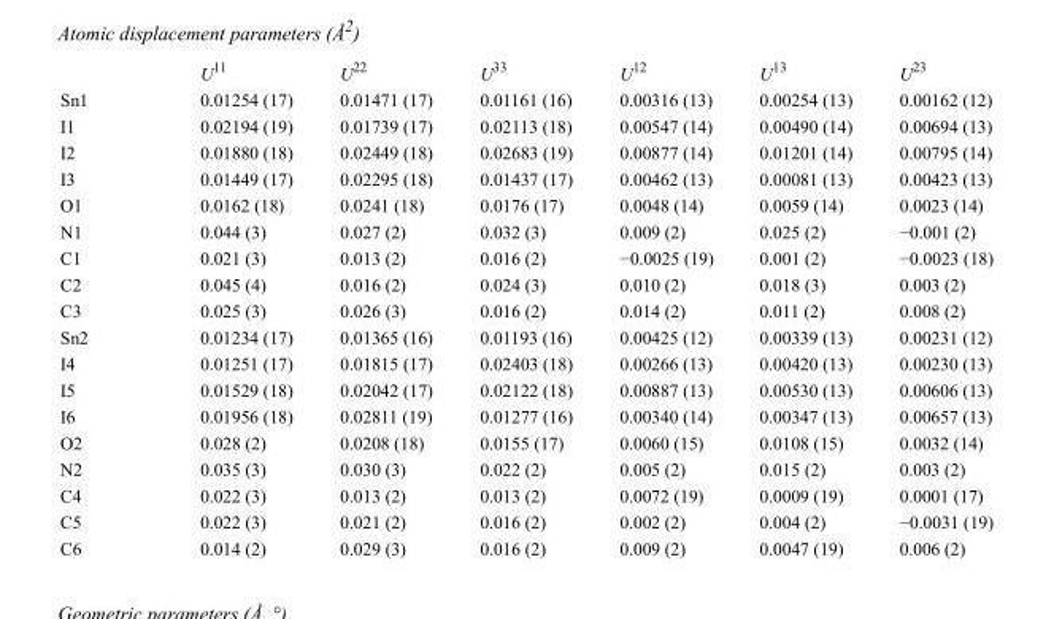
<table><thead><tr><td></td><td>U<sup>11</sup></td><td>U<sup>22</sup></td><td>U<sup>33</sup></td><td>U<sup>12</sup></td><td>U<sup>13</sup></td><td>U<sup>23</sup></td></tr></thead><tbody><tr><td>Sn1</td><td>0.01254 (17)</td><td>0.01471 (17)</td><td>0.01161 (16)</td><td>0.00316 (13)</td><td>0.00254 (13)</td><td>0.00162 (12)</td></tr><tr><td>I1</td><td>0.02194 (19)</td><td>0.01739 (17)</td><td>0.02113 (18)</td><td>0.00547 (14)</td><td>0.00490 (14)</td><td>0.00694 (13)</td></tr><tr><td>I2</td><td>0.01880 (18)</td><td>0.02449 (18)</td><td>0.02683 (19)</td><td>0.00877 (14)</td><td>0.01201 (14)</td><td>0.00795 (14)</td></tr><tr><td>I3</td><td>0.01449 (17)</td><td>0.02295 (18)</td><td>0.01437 (17)</td><td>0.00462 (13)</td><td>0.00081 (13)</td><td>0.00423 (13)</td></tr><tr><td>O1</td><td>0.0162 (18)</td><td>0.0241 (18)</td><td>0.0176 (17)</td><td>0.0048 (14)</td><td>0.0059 (14)</td><td>0.0023 (14)</td></tr><tr><td>N1</td><td>0.044 (3)</td><td>0.027 (2)</td><td>0.032 (3)</td><td>0.009 (2)</td><td>0.025 (2)</td><td>−0.001 (2)</td></tr><tr><td>C1</td><td>0.021 (3)</td><td>0.013 (2)</td><td>0.016 (2)</td><td>−0.0025 (19)</td><td>0.001 (2)</td><td>−0.0023 (18)</td></tr><tr><td>C2</td><td>0.045 (4)</td><td>0.016 (2)</td><td>0.024 (3)</td><td>0.010 (2)</td><td>0.018 (3)</td><td>0.003 (2)</td></tr><tr><td>C3</td><td>0.025 (3)</td><td>0.026 (3)</td><td>0.016 (2)</td><td>0.014 (2)</td><td>0.011 (2)</td><td>0.008 (2)</td></tr><tr><td>Sn2</td><td>0.01234 (17)</td><td>0.01365 (16)</td><td>0.01193 (16)</td><td>0.00425 (12)</td><td>0.00339 (13)</td><td>0.00231 (12)</td></tr><tr><td>I4</td><td>0.01251 (17)</td><td>0.01815 (17)</td><td>0.02403 (18)</td><td>0.00266 (13)</td><td>0.00420 (13)</td><td>0.00230 (13)</td></tr><tr><td>I5</td><td>0.01529 (18)</td><td>0.02042 (17)</td><td>0.02122 (18)</td><td>0.00887 (13)</td><td>0.00530 (13)</td><td>0.00606 (13)</td></tr><tr><td>I6</td><td>0.01956 (18)</td><td>0.02811 (19)</td><td>0.01277 (16)</td><td>0.00340 (14)</td><td>0.00347 (13)</td><td>0.00657 (13)</td></tr><tr><td>O2</td><td>0.028 (2)</td><td>0.0208 (18)</td><td>0.0155 (17)</td><td>0.0060 (15)</td><td>0.0108 (15)</td><td>0.0032 (14)</td></tr><tr><td>N2</td><td>0.035 (3)</td><td>0.030 (3)</td><td>0.022 (2)</td><td>0.005 (2)</td><td>0.015 (2)</td><td>0.003 (2)</td></tr><tr><td>C4</td><td>0.022 (3)</td><td>0.013 (2)</td><td>0.013 (2)</td><td>0.0072 (19)</td><td>0.0009 (19)</td><td>0.0001 (17)</td></tr><tr><td>C5</td><td>0.022 (3)</td><td>0.021 (2)</td><td>0.016 (2)</td><td>0.002 (2)</td><td>0.004 (2)</td><td>−0.0031 (19)</td></tr><tr><td>C6</td><td>0.014 (2)</td><td>0.029 (3)</td><td>0.016 (2)</td><td>0.009 (2)</td><td>0.0047 (19)</td><td>0.006 (2)</td></tr></tbody></table>